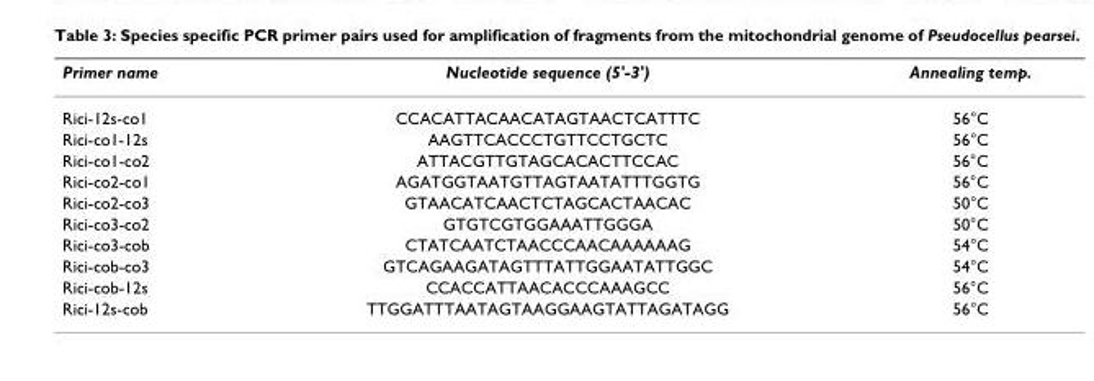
<table><thead><tr><td>Primer name</td><td>Nucleotide sequence (5&#x27;-3&#x27;)</td><td>Annealing temp.</td></tr></thead><tbody><tr><td>Rici-12s-co1</td><td>CCACATTACAACATAGTAACTCATTTC</td><td>56°C</td></tr><tr><td>Rici-co1-12s</td><td>AAGTTCACCCTGTTCCTGCTC</td><td>56°C</td></tr><tr><td>Rici-co1-co2</td><td>ATTACGTTGTAGCACACTTCCAC</td><td>56°C</td></tr><tr><td>Rici-co2-co1</td><td>AGATGGTAATGTTAGTAATATTTGGTG</td><td>56°C</td></tr><tr><td>Rici-co2-co3</td><td>GTAACATCAACTCTAGCACTAACAC</td><td>50°C</td></tr><tr><td>Rici-co3-co2</td><td>GTGTCGTGGAAATTGGGA</td><td>50°C</td></tr><tr><td>Rici-co3-cob</td><td>CTATCAATCTAACCCAACAAAAAAG</td><td>54°C</td></tr><tr><td>Rici-cob-co3</td><td>GTCAGAAGATAGTTTATTGGAATATTGGC</td><td>54°C</td></tr><tr><td>Rici-cob-12s</td><td>CCACCATTAACACCCAAAGCC</td><td>56°C</td></tr><tr><td>Rici-12s-cob</td><td>TTGGATTTAATAGTAAGGAAGTATTAGATAGG</td><td>56°C</td></tr></tbody></table>